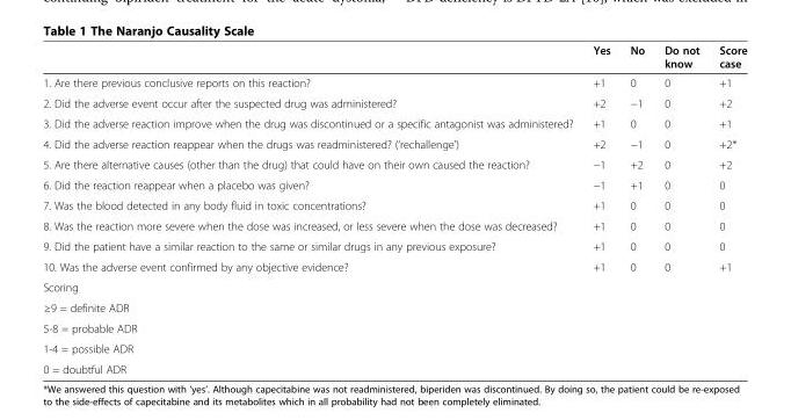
<table><thead><tr><td></td><td>Yes</td><td>No</td><td>Do not know</td><td>Score case</td></tr></thead><tbody><tr><td>1. Are there previous conclusive reports on this reaction?</td><td>+1</td><td>0</td><td>0</td><td>+1</td></tr><tr><td>2. Did the adverse event occur after the suspected drug was administered?</td><td>+2</td><td>−1</td><td>0</td><td>+2</td></tr><tr><td>3. Did the adverse reaction improve when the drug was discontinued or a specific antagonist was administered?</td><td>+1</td><td>0</td><td>0</td><td>+1</td></tr><tr><td>4. Did the adverse reaction reappear when the drugs was readministered? (‘rechallenge’)</td><td>+2</td><td>−1</td><td>0</td><td>+2*</td></tr><tr><td>5. Are there alternative causes (other than the drug) that could have on their own caused the reaction?</td><td>−1</td><td>+2</td><td>0</td><td>+2</td></tr><tr><td>6. Did the reaction reappear when a placebo was given?</td><td>−1</td><td>+1</td><td>0</td><td>0</td></tr><tr><td>7. Was the blood detected in any body fluid in toxic concentrations?</td><td>+1</td><td>0</td><td>0</td><td>0</td></tr><tr><td>8. Was the reaction more severe when the dose was increased, or less severe when the dose was decreased?</td><td>+1</td><td>0</td><td>0</td><td>0</td></tr><tr><td>9. Did the patient have a similar reaction to the same or similar drugs in any previous exposure?</td><td>+1</td><td>0</td><td>0</td><td>0</td></tr><tr><td>10. Was the adverse event confirmed by any objective evidence?</td><td>+1</td><td>0</td><td>0</td><td>+1</td></tr><tr><td colspan="5">Scoring</td></tr><tr><td colspan="5">≥9 = definite ADR</td></tr><tr><td colspan="5">5-8 = probable ADR</td></tr><tr><td colspan="5">1-4 = possible ADR</td></tr><tr><td colspan="5">0 = doubtful ADR</td></tr></tbody></table>